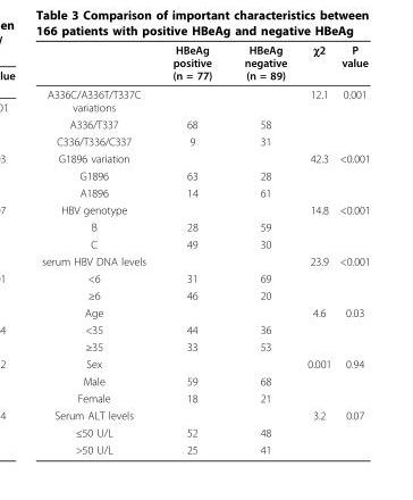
<table><thead><tr><td></td><td>HBeAg positive (n = 77)</td><td>HBeAg negative (n = 89)</td><td>χ2</td><td>P value</td></tr></thead><tbody><tr><td>A336C/A336T/T337C variations</td><td></td><td></td><td>12.1</td><td>0.001</td></tr><tr><td>A336/T337</td><td>68</td><td>58</td><td></td><td></td></tr><tr><td>C336/T336/C337</td><td>9</td><td>31</td><td></td><td></td></tr><tr><td>G1896 variation</td><td></td><td></td><td>42.3</td><td>&lt;0.001</td></tr><tr><td>G1896</td><td>63</td><td>28</td><td></td><td></td></tr><tr><td>A1896</td><td>14</td><td>61</td><td></td><td></td></tr><tr><td>HBV genotype</td><td></td><td></td><td>14.8</td><td>&lt;0.001</td></tr><tr><td>B</td><td>28</td><td>59</td><td></td><td></td></tr><tr><td>C</td><td>49</td><td>30</td><td></td><td></td></tr><tr><td>serum HBV DNA levels</td><td></td><td></td><td>23.9</td><td>&lt;0.001</td></tr><tr><td>&lt;6</td><td>31</td><td>69</td><td></td><td></td></tr><tr><td>≥6</td><td>46</td><td>20</td><td></td><td></td></tr><tr><td>Age</td><td></td><td></td><td>4.6</td><td>0.03</td></tr><tr><td>&lt;35</td><td>44</td><td>36</td><td></td><td></td></tr><tr><td>≥35</td><td>33</td><td>53</td><td></td><td></td></tr><tr><td>Sex</td><td></td><td></td><td>0.001</td><td>0.94</td></tr><tr><td>Male</td><td>59</td><td>68</td><td></td><td></td></tr><tr><td>Female</td><td>18</td><td>21</td><td></td><td></td></tr><tr><td>Serum ALT levels</td><td></td><td></td><td>3.2</td><td>0.07</td></tr><tr><td>≤50 U/L</td><td>52</td><td>48</td><td></td><td></td></tr><tr><td>&gt;50 U/L</td><td>25</td><td>41</td><td></td><td></td></tr></tbody></table>